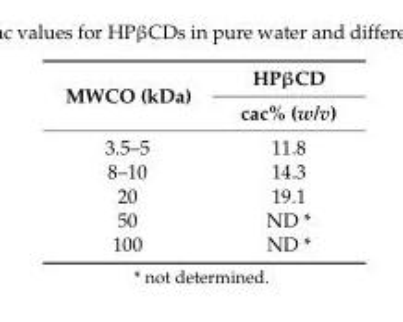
<table><thead><tr><td rowspan="2">MWCO (kDa)</td><td rowspan="2">HPβCD cac% (w/v)</td></tr><tr></tr></thead><tbody><tr><td>3.5–5</td><td>11.8</td></tr><tr><td>8–10</td><td>14.3</td></tr><tr><td>20</td><td>19.1</td></tr><tr><td>50</td><td>ND *</td></tr><tr><td>100</td><td>ND *</td></tr></tbody></table>